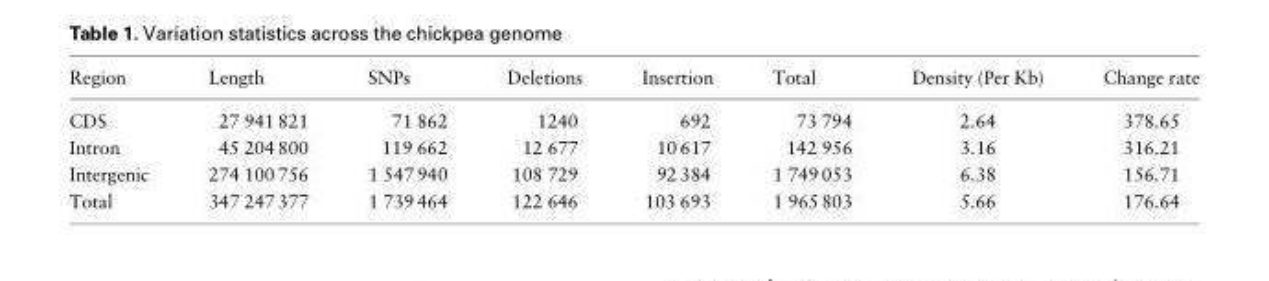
<table><thead><tr><td>Region</td><td>Length</td><td>SNPs</td><td>Deletions</td><td>Insertion</td><td>Total</td><td>Density (Per Kb)</td><td>Change rate</td></tr></thead><tbody><tr><td>CDS</td><td>27 941 821</td><td>71 862</td><td>1240</td><td>692</td><td>73 794</td><td>2.64</td><td>378.65</td></tr><tr><td>Intron</td><td>45 204 800</td><td>119 662</td><td>12 677</td><td>10 617</td><td>142 956</td><td>3.16</td><td>316.21</td></tr><tr><td>Intergenic</td><td>274 100 756</td><td>1 547 940</td><td>108 729</td><td>92 384</td><td>1 749 053</td><td>6.38</td><td>156.71</td></tr><tr><td>Total</td><td>347 247 377</td><td>1 739 464</td><td>122 646</td><td>103 693</td><td>1 965 803</td><td>5.66</td><td>176.64</td></tr></tbody></table>